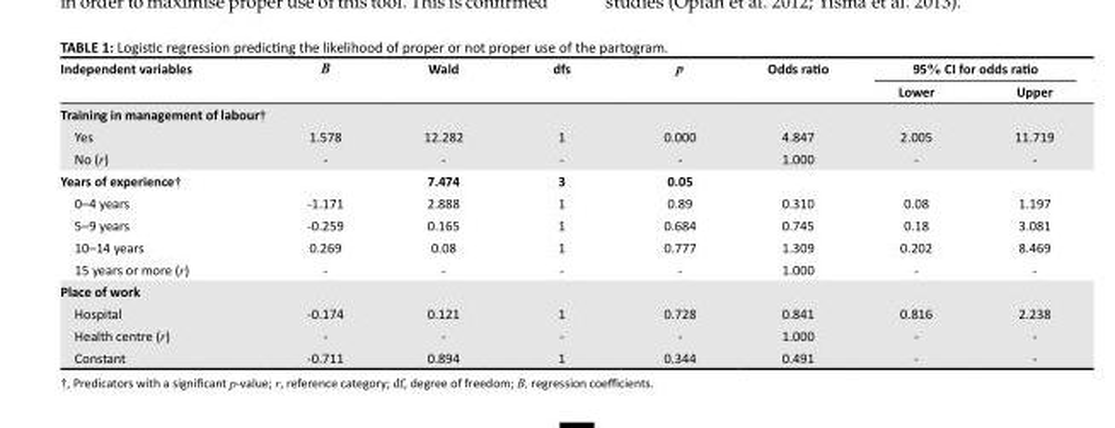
<table><thead><tr><td rowspan="2">Independent variables</td><td rowspan="2">B</td><td rowspan="2">Wald</td><td rowspan="2">dfs</td><td rowspan="2">p</td><td rowspan="2">Odds ratio</td><td colspan="2">95% CI for odds ratio</td></tr><tr><td>Lower</td><td>Upper</td></tr></thead><tbody><tr><td colspan="8">Training in management of labour†</td></tr><tr><td>Yes</td><td>1.578</td><td>12.282</td><td>1</td><td>0.000</td><td>4.847</td><td>2.005</td><td>11.719</td></tr><tr><td>No (r)</td><td>-</td><td>-</td><td>-</td><td>-</td><td>1.000</td><td>-</td><td>-</td></tr><tr><td>Years of experience†</td><td></td><td>7.474</td><td>3</td><td>0.05</td><td></td><td></td><td></td></tr><tr><td>0–4 years</td><td>-1.171</td><td>2.888</td><td>1</td><td>0.89</td><td>0.310</td><td>0.08</td><td>1.197</td></tr><tr><td>5–9 years</td><td>-0.259</td><td>0.165</td><td>1</td><td>0.684</td><td>0.745</td><td>0.18</td><td>3.081</td></tr><tr><td>10–14 years</td><td>0.269</td><td>0.08</td><td>1</td><td>0.777</td><td>1.309</td><td>0.202</td><td>8.469</td></tr><tr><td>15 years or more (r)</td><td>-</td><td>-</td><td>-</td><td>-</td><td>1.000</td><td>-</td><td>-</td></tr><tr><td colspan="8">Place of work</td></tr><tr><td>Hospital</td><td>-0.174</td><td>0.121</td><td>1</td><td>0.728</td><td>0.841</td><td>0.816</td><td>2.238</td></tr><tr><td>Health centre (r)</td><td>-</td><td>-</td><td>-</td><td>-</td><td>1.000</td><td>-</td><td>-</td></tr><tr><td>Constant</td><td>-0.711</td><td>0.894</td><td>1</td><td>0.344</td><td>0.491</td><td>-</td><td>-</td></tr></tbody></table>